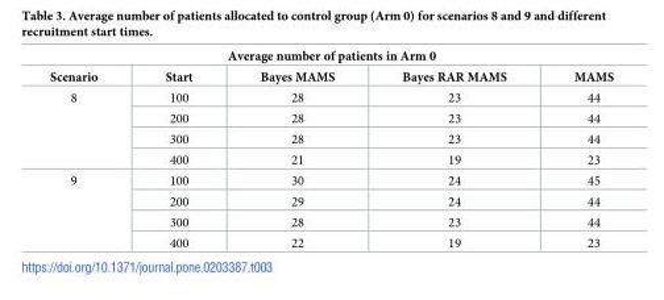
<table><thead><tr><td colspan="5">Average number of patients in Arm 0</td></tr><tr><td>Scenario</td><td>Start</td><td>Bayes MAMS</td><td>Bayes RAR MAMS</td><td>MAMS</td></tr></thead><tbody><tr><td rowspan="4">8</td><td>100</td><td>28</td><td>23</td><td>44</td></tr><tr><td>200</td><td>28</td><td>23</td><td>44</td></tr><tr><td>300</td><td>28</td><td>23</td><td>44</td></tr><tr><td>400</td><td>21</td><td>19</td><td>23</td></tr><tr><td rowspan="4">9</td><td>100</td><td>30</td><td>24</td><td>45</td></tr><tr><td>200</td><td>29</td><td>24</td><td>44</td></tr><tr><td>300</td><td>28</td><td>23</td><td>44</td></tr><tr><td>400</td><td>22</td><td>19</td><td>23</td></tr></tbody></table>